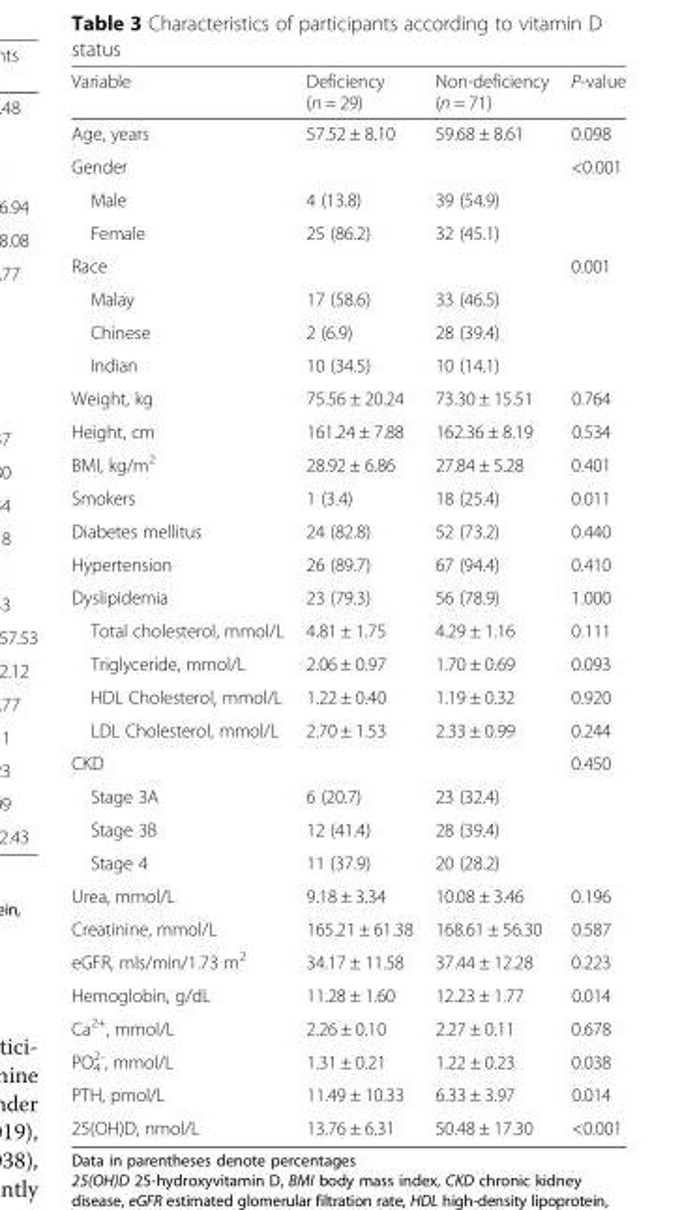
<table><thead><tr><td>Variable</td><td>Deficiency (n = 29)</td><td>Non-deficiency (n = 71)</td><td>P-value</td></tr></thead><tbody><tr><td>Age, years</td><td>57.52 ± 8.10</td><td>59.68 ± 8.61</td><td>0.098</td></tr><tr><td>Gender</td><td></td><td></td><td>&lt;0.001</td></tr><tr><td>Male</td><td>4 (13.8)</td><td>39 (54.9)</td><td></td></tr><tr><td>Female</td><td>25 (86.2)</td><td>32 (45.1)</td><td></td></tr><tr><td>Race</td><td></td><td></td><td>0.001</td></tr><tr><td>Malay</td><td>17 (58.6)</td><td>33 (46.5)</td><td></td></tr><tr><td>Chinese</td><td>2 (6.9)</td><td>28 (39.4)</td><td></td></tr><tr><td>Indian</td><td>10 (34.5)</td><td>10 (14.1)</td><td></td></tr><tr><td>Weight, kg</td><td>75.56 ± 20.24</td><td>73.30 ± 15.51</td><td>0.764</td></tr><tr><td>Height, cm</td><td>161.24 ± 7.88</td><td>162.36 ± 8.19</td><td>0.534</td></tr><tr><td>BMI, kg/m<sup>2</sup></td><td>28.92 ± 6.86</td><td>27.84 ± 5.28</td><td>0.401</td></tr><tr><td>Smokers</td><td>1 (3.4)</td><td>18 (25.4)</td><td>0.011</td></tr><tr><td>Diabetes mellitus</td><td>24 (82.8)</td><td>52 (73.2)</td><td>0.440</td></tr><tr><td>Hypertension</td><td>26 (89.7)</td><td>67 (94.4)</td><td>0.410</td></tr><tr><td>Dyslipidemia</td><td>23 (79.3)</td><td>56 (78.9)</td><td>1.000</td></tr><tr><td>Total cholesterol, mmol/L</td><td>4.81 ± 1.75</td><td>4.29 ± 1.16</td><td>0.111</td></tr><tr><td>Triglyceride, mmol/L</td><td>2.06 ± 0.97</td><td>1.70 ± 0.69</td><td>0.093</td></tr><tr><td>HDL Cholesterol, mmol/L</td><td>1.22 ± 0.40</td><td>1.19 ± 0.32</td><td>0.920</td></tr><tr><td>LDL Cholesterol, mmol/L</td><td>2.70 ± 1.53</td><td>2.33 ± 0.99</td><td>0.244</td></tr><tr><td>CKD</td><td></td><td></td><td>0.450</td></tr><tr><td>Stage 3A</td><td>6 (20.7)</td><td>23 (32.4)</td><td></td></tr><tr><td>Stage 3B</td><td>12 (41.4)</td><td>28 (39.4)</td><td></td></tr><tr><td>Stage 4</td><td>11 (37.9)</td><td>20 (28.2)</td><td></td></tr><tr><td>Urea, mmol/L</td><td>9.18 ± 3.34</td><td>10.08 ± 3.46</td><td>0.196</td></tr><tr><td>Creatinine, mmol/L</td><td>165.21 ± 61.38</td><td>168.61 ± 56.30</td><td>0.587</td></tr><tr><td>eGFR, mls/min/1.73 m<sup>2</sup></td><td>34.17 ± 11.58</td><td>37.44 ± 12.28</td><td>0.223</td></tr><tr><td>Hemoglobin, g/dL</td><td>11.28 ± 1.60</td><td>12.23 ± 1.77</td><td>0.014</td></tr><tr><td>Ca<sup>2+</sup>, mmol/L</td><td>2.26 ± 0.10</td><td>2.27 ± 0.11</td><td>0.678</td></tr><tr><td>PO<sub>4</sub> <sup>2-</sup>, mmol/L</td><td>1.31 ± 0.21</td><td>1.22 ± 0.23</td><td>0.038</td></tr><tr><td>PTH, pmol/L</td><td>11.49 ± 10.33</td><td>6.33 ± 3.97</td><td>0.014</td></tr><tr><td>25(OH)D, nmol/L</td><td>13.76 ± 6.31</td><td>50.48 ± 17.30</td><td>&lt;0.001</td></tr></tbody></table>